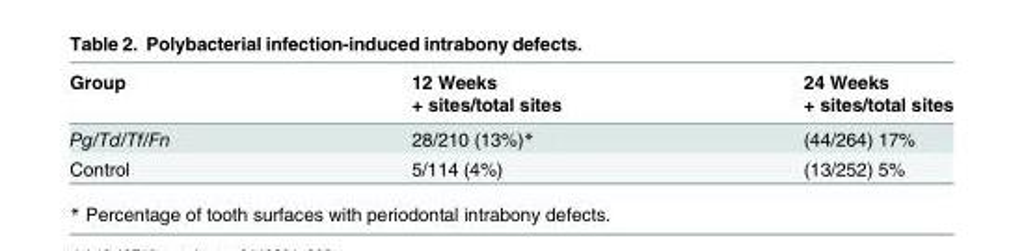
<table><thead><tr><td rowspan="2">Group</td><td rowspan="2">12 Weeks + sites/total sites</td><td rowspan="2">24 Weeks + sites/total sites</td></tr><tr></tr></thead><tbody><tr><td>Pg/Td/Tf/Fn</td><td>28/210 (13%)*</td><td>(44/264) 17%</td></tr><tr><td>Control</td><td>5/114 (4%)</td><td>(13/252) 5%</td></tr></tbody></table>